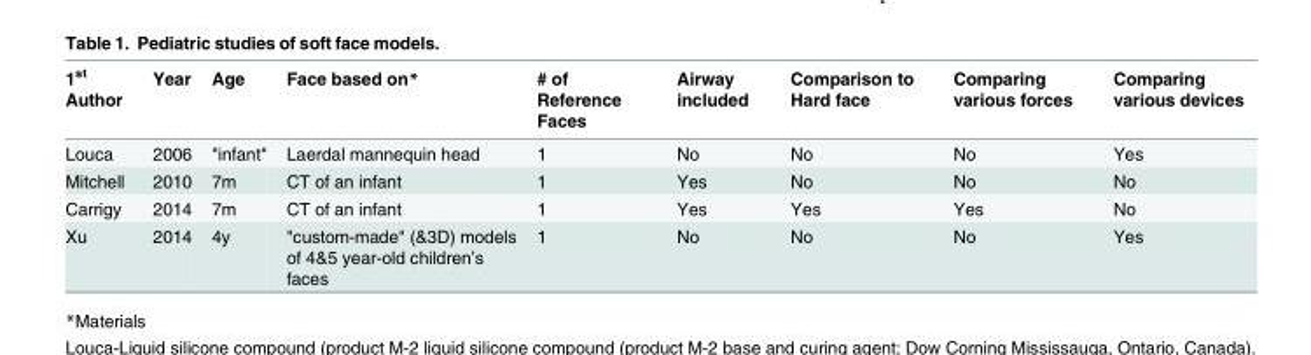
<table><thead><tr><td>1<sup>st</sup> Author</td><td>Year</td><td>Age</td><td>Face based on*</td><td># of Reference Faces</td><td>Airway included</td><td>Comparison to Hard face</td><td>Comparing various forces</td><td>Comparing various devices</td></tr></thead><tbody><tr><td>Louca</td><td>2006</td><td>&quot;infant&quot;</td><td>Laerdal mannequin head</td><td>1</td><td>No</td><td>No</td><td>No</td><td>Yes</td></tr><tr><td>Mitchell</td><td>2010</td><td>7m</td><td>CT of an infant</td><td>1</td><td>Yes</td><td>No</td><td>No</td><td>No</td></tr><tr><td>Carrigy</td><td>2014</td><td>7m</td><td>CT of an infant</td><td>1</td><td>Yes</td><td>Yes</td><td>Yes</td><td>No</td></tr><tr><td>Xu</td><td>2014</td><td>4y</td><td>&quot;custom-made&quot; (&amp;3D) models of 4&amp;5 year-old children’s faces</td><td>1</td><td>No</td><td>No</td><td>No</td><td>Yes</td></tr></tbody></table>